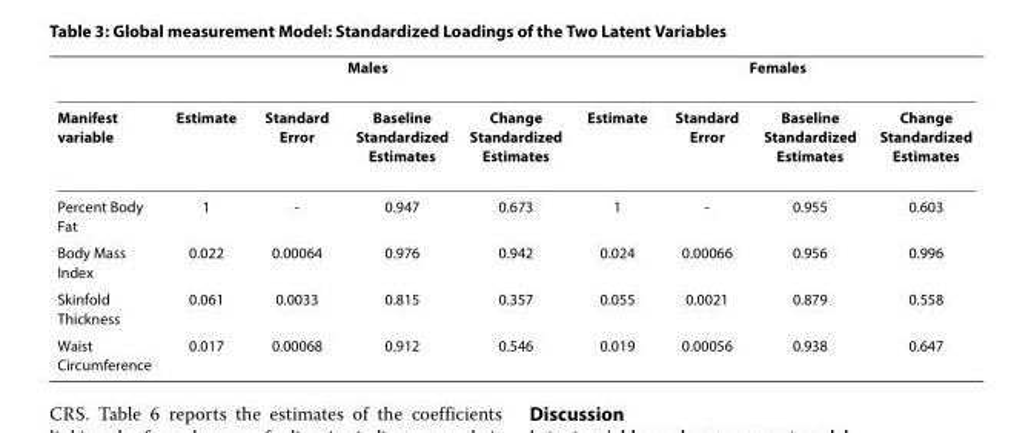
<table><thead><tr><td rowspan="2">Manifest variable</td><td colspan="4">Males</td><td colspan="4">Females</td></tr><tr><td>Estimate</td><td>Standard Error</td><td>Baseline Standardized Estimates</td><td>Change Standardized Estimates</td><td>Estimate</td><td>Standard Error</td><td>Baseline Standardized Estimates</td><td>Change Standardized Estimates</td></tr></thead><tbody><tr><td>Percent Body Fat</td><td>1</td><td>-</td><td>0.947</td><td>0.673</td><td>1</td><td>-</td><td>0.955</td><td>0.603</td></tr><tr><td>Body Mass Index</td><td>0.022</td><td>0.00064</td><td>0.976</td><td>0.942</td><td>0.024</td><td>0.00066</td><td>0.956</td><td>0.996</td></tr><tr><td>Skinfold Thickness</td><td>0.061</td><td>0.0033</td><td>0.815</td><td>0.357</td><td>0.055</td><td>0.0021</td><td>0.879</td><td>0.558</td></tr><tr><td>Waist Circumference</td><td>0.017</td><td>0.00068</td><td>0.912</td><td>0.546</td><td>0.019</td><td>0.00056</td><td>0.938</td><td>0.647</td></tr></tbody></table>